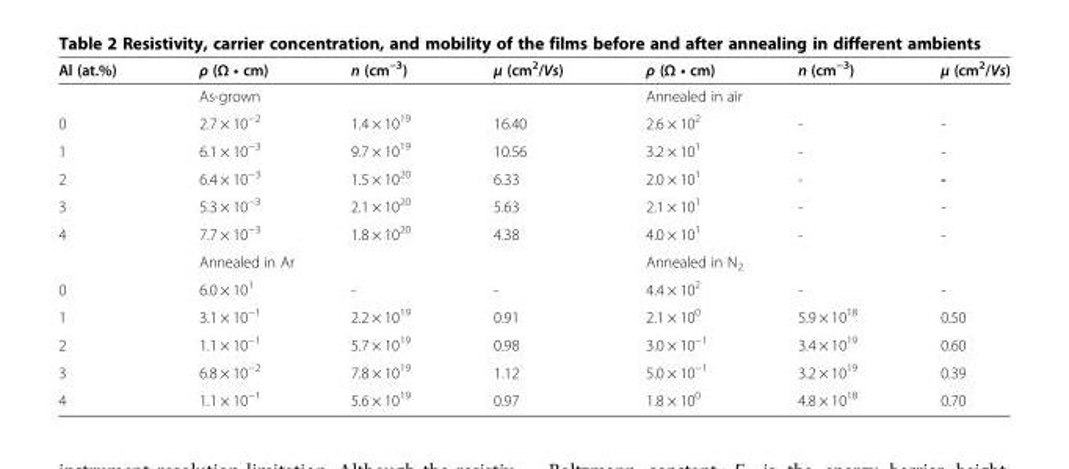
<table><thead><tr><td>Al (at.%)</td><td>ρ (Ω • cm)</td><td>n (cm<sup>−3</sup>)</td><td>μ (cm<sup>2</sup>/Vs)</td><td>ρ (Ω • cm)</td><td>n (cm<sup>−3</sup>)</td><td>μ (cm<sup>2</sup>/Vs)</td></tr></thead><tbody><tr><td></td><td colspan="3">As-grown</td><td colspan="3">Annealed in air</td></tr><tr><td>0</td><td>2.7 × 10<sup>−2</sup></td><td>1.4 × 10<sup>19</sup></td><td>16.40</td><td>2.6 × 10<sup>2</sup></td><td>-</td><td>-</td></tr><tr><td>1</td><td>6.1 × 10<sup>−3</sup></td><td>9.7 × 10<sup>19</sup></td><td>10.56</td><td>3.2 × 10<sup>1</sup></td><td>-</td><td>-</td></tr><tr><td>2</td><td>6.4 × 10<sup>−3</sup></td><td>1.5 × 10<sup>20</sup></td><td>6.33</td><td>2.0 × 10<sup>1</sup></td><td>-</td><td>-</td></tr><tr><td>3</td><td>5.3 × 10<sup>−3</sup></td><td>2.1 × 10<sup>20</sup></td><td>5.63</td><td>2.1 × 10<sup>1</sup></td><td>-</td><td>-</td></tr><tr><td rowspan="2">4</td><td>7.7 × 10<sup>−3</sup></td><td>1.8 × 10<sup>20</sup></td><td>4.38</td><td>4.0 × 10<sup>1</sup></td><td>-</td><td>-</td></tr><tr><td colspan="3">Annealed in Ar</td><td colspan="3">Annealed in N<sub>2</sub></td></tr><tr><td>0</td><td>6.0 × 10<sup>1</sup></td><td>-</td><td>-</td><td>4.4 × 10<sup>2</sup></td><td>-</td><td>-</td></tr><tr><td>1</td><td>3.1 × 10<sup>−1</sup></td><td>2.2 × 10<sup>19</sup></td><td>0.91</td><td>2.1 × 10<sup>0</sup></td><td>5.9 × 10<sup>18</sup></td><td>0.50</td></tr><tr><td>2</td><td>1.1 × 10<sup>−1</sup></td><td>5.7 × 10<sup>19</sup></td><td>0.98</td><td>3.0 × 10<sup>−1</sup></td><td>3.4 × 10<sup>19</sup></td><td>0.60</td></tr><tr><td>3</td><td>6.8 × 10<sup>−2</sup></td><td>7.8 × 10<sup>19</sup></td><td>1.12</td><td>5.0 × 10<sup>−1</sup></td><td>3.2 × 10<sup>19</sup></td><td>0.39</td></tr><tr><td>4</td><td>1.1 × 10<sup>−1</sup></td><td>5.6 × 10<sup>19</sup></td><td>0.97</td><td>1.8 × 10<sup>0</sup></td><td>4.8 × 10<sup>18</sup></td><td>0.70</td></tr></tbody></table>